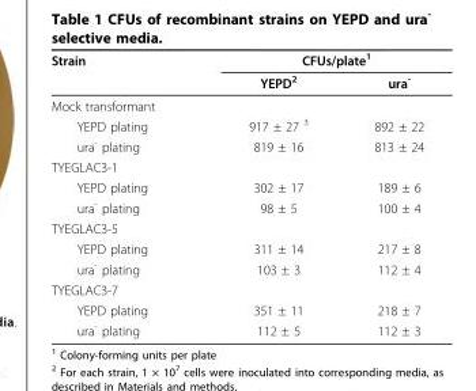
<table><thead><tr><td rowspan="2">Strain</td><td colspan="2">CFUs/plate<sup>1</sup></td></tr><tr><td>YEPD<sup>2</sup></td><td>ura<sup>-</sup></td></tr></thead><tbody><tr><td colspan="3">Mock transformant</td></tr><tr><td>YEPD plating</td><td>917 ± 27 <sup>3</sup></td><td>892 ± 22</td></tr><tr><td>ura<sup>-</sup> plating</td><td>819 ± 16</td><td>813 ± 24</td></tr><tr><td colspan="3">TYEGLAC3-1</td></tr><tr><td>YEPD plating</td><td>302 ± 17</td><td>189 ± 6</td></tr><tr><td>ura<sup>-</sup> plating</td><td>98 ± 5</td><td>100 ± 4</td></tr><tr><td colspan="3">TYEGLAC3-5</td></tr><tr><td>YEPD plating</td><td>311 ± 14</td><td>217 ± 8</td></tr><tr><td>ura<sup>-</sup> plating</td><td>103 ± 3</td><td>112 ± 4</td></tr><tr><td colspan="3">TYEGLAC3-7</td></tr><tr><td>YEPD plating</td><td>351 ± 11</td><td>218 ± 7</td></tr><tr><td>ura<sup>-</sup> plating</td><td>112 ± 5</td><td>112 ± 3</td></tr></tbody></table>